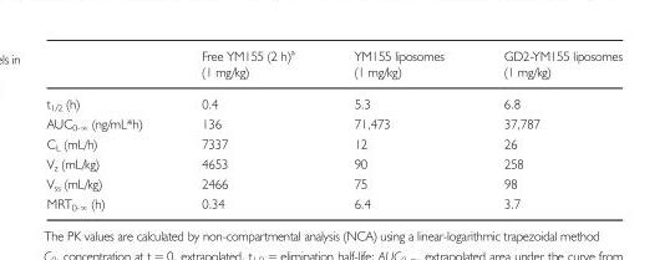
<table><thead><tr><td></td><td>Free YM155 (2 h)<sup>a</sup> (1 mg/kg)</td><td>YM155 liposomes (1 mg/kg)</td><td>GD2-YM155 liposomes (1 mg/kg)</td></tr></thead><tbody><tr><td>t<sub>1/2</sub> (h)</td><td>0.4</td><td>5.3</td><td>6.8</td></tr><tr><td>AUC<sub>0-∞</sub> (ng/mL*h)</td><td>136</td><td>71,473</td><td>37,787</td></tr><tr><td>C<sub>L</sub> (mL/h)</td><td>7337</td><td>12</td><td>26</td></tr><tr><td>V<sub>z</sub> (mL/kg)</td><td>4653</td><td>90</td><td>258</td></tr><tr><td>V<sub>ss</sub> (mL/kg)</td><td>2466</td><td>75</td><td>98</td></tr><tr><td>MRT<sub>0-∞</sub> (h)</td><td>0.34</td><td>6.4</td><td>3.7</td></tr></tbody></table>